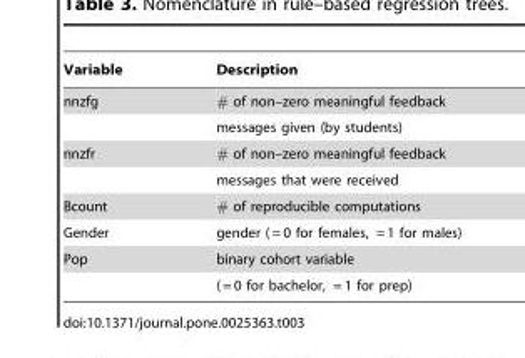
<table><thead><tr><td>Variable</td><td>Description</td></tr></thead><tbody><tr><td rowspan="2">nnzfg</td><td># of non–zero meaningful feedback</td></tr><tr><td>messages given (by students)</td></tr><tr><td rowspan="2">nnzfr</td><td># of non–zero meaningful feedback</td></tr><tr><td>messages that were received</td></tr><tr><td>Bcount</td><td># of reproducible computations</td></tr><tr><td>Gender</td><td>gender ( = 0 for females, = 1 for males)</td></tr><tr><td rowspan="2">Pop</td><td>binary cohort variable</td></tr><tr><td>( = 0 for bachelor, = 1 for prep)</td></tr></tbody></table>